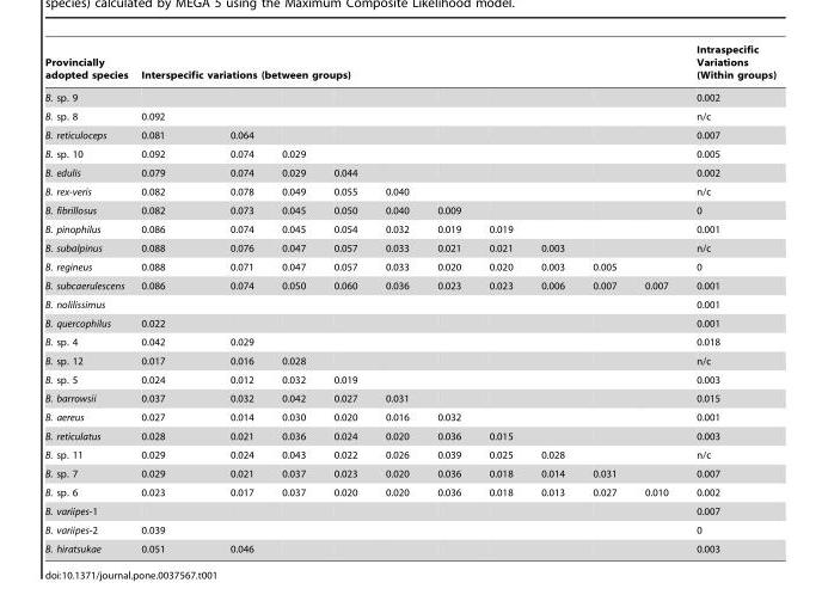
<table><thead><tr><td rowspan="2">Provincially adopted species B. sp. 9</td><td colspan="10">Interspecific variations (between groups)</td><td rowspan="2">Intraspecific Variations (Within groups) 0.002</td></tr><tr><td></td><td></td><td></td><td></td><td></td><td></td><td></td><td></td><td></td><td></td></tr></thead><tbody><tr><td>B. sp. 8</td><td>0.092</td><td></td><td></td><td></td><td></td><td></td><td></td><td></td><td></td><td></td><td>n/c</td></tr><tr><td>B. reticuloceps</td><td>0.081</td><td>0.064</td><td></td><td></td><td></td><td></td><td></td><td></td><td></td><td></td><td>0.007</td></tr><tr><td>B. sp. 10</td><td>0.092</td><td>0.074</td><td>0.029</td><td></td><td></td><td></td><td></td><td></td><td></td><td></td><td>0.005</td></tr><tr><td>B. edulis</td><td>0.079</td><td>0.074</td><td>0.029</td><td>0.044</td><td></td><td></td><td></td><td></td><td></td><td></td><td>0.002</td></tr><tr><td>B. rex-veris</td><td>0.082</td><td>0.078</td><td>0.049</td><td>0.055</td><td>0.040</td><td></td><td></td><td></td><td></td><td></td><td>n/c</td></tr><tr><td>B. fibrillosus</td><td>0.082</td><td>0.073</td><td>0.045</td><td>0.050</td><td>0.040</td><td>0.009</td><td></td><td></td><td></td><td></td><td>0</td></tr><tr><td>B. pinophilus</td><td>0.086</td><td>0.074</td><td>0.045</td><td>0.054</td><td>0.032</td><td>0.019</td><td>0.019</td><td></td><td></td><td></td><td>0.001</td></tr><tr><td>B. subalpinus</td><td>0.088</td><td>0.076</td><td>0.047</td><td>0.057</td><td>0.033</td><td>0.021</td><td>0.021</td><td>0.003</td><td></td><td></td><td>n/c</td></tr><tr><td>B. regineus</td><td>0.088</td><td>0.071</td><td>0.047</td><td>0.057</td><td>0.033</td><td>0.020</td><td>0.020</td><td>0.003</td><td>0.005</td><td></td><td>0</td></tr><tr><td>B. subcaerulescens</td><td>0.086</td><td>0.074</td><td>0.050</td><td>0.060</td><td>0.036</td><td>0.023</td><td>0.023</td><td>0.006</td><td>0.007</td><td>0.007</td><td>0.001</td></tr><tr><td>B. nolilissimus</td><td></td><td></td><td></td><td></td><td></td><td></td><td></td><td></td><td></td><td></td><td>0.001</td></tr><tr><td>B. quercophilus</td><td>0.022</td><td></td><td></td><td></td><td></td><td></td><td></td><td></td><td></td><td></td><td>0.001</td></tr><tr><td>B. sp. 4</td><td>0.042</td><td>0.029</td><td></td><td></td><td></td><td></td><td></td><td></td><td></td><td></td><td>0.018</td></tr><tr><td>B. sp. 12</td><td>0.017</td><td>0.016</td><td>0.028</td><td></td><td></td><td></td><td></td><td></td><td></td><td></td><td>n/c</td></tr><tr><td>B. sp. 5</td><td>0.024</td><td>0.012</td><td>0.032</td><td>0.019</td><td></td><td></td><td></td><td></td><td></td><td></td><td>0.003</td></tr><tr><td>B. barrowsii</td><td>0.037</td><td>0.032</td><td>0.042</td><td>0.027</td><td>0.031</td><td></td><td></td><td></td><td></td><td></td><td>0.015</td></tr><tr><td>B. aereus</td><td>0.027</td><td>0.014</td><td>0.030</td><td>0.020</td><td>0.016</td><td>0.032</td><td></td><td></td><td></td><td></td><td>0.001</td></tr><tr><td>B. reticulatus</td><td>0.028</td><td>0.021</td><td>0.036</td><td>0.024</td><td>0.020</td><td>0.036</td><td>0.015</td><td></td><td></td><td></td><td>0.003</td></tr><tr><td>B. sp. 11</td><td>0.029</td><td>0.024</td><td>0.043</td><td>0.022</td><td>0.026</td><td>0.039</td><td>0.025</td><td>0.028</td><td></td><td></td><td>n/c</td></tr><tr><td>B. sp. 7</td><td>0.029</td><td>0.021</td><td>0.037</td><td>0.023</td><td>0.020</td><td>0.036</td><td>0.018</td><td>0.014</td><td>0.031</td><td></td><td>0.007</td></tr><tr><td>B. sp. 6</td><td>0.023</td><td>0.017</td><td>0.037</td><td>0.020</td><td>0.020</td><td>0.036</td><td>0.018</td><td>0.013</td><td>0.027</td><td>0.010</td><td>0.002</td></tr><tr><td>B. variipes-1</td><td></td><td></td><td></td><td></td><td></td><td></td><td></td><td></td><td></td><td></td><td>0.007</td></tr><tr><td>B. variipes-2</td><td>0.039</td><td></td><td></td><td></td><td></td><td></td><td></td><td></td><td></td><td></td><td>0</td></tr><tr><td>B. hiratsukae</td><td>0.051</td><td>0.046</td><td></td><td></td><td></td><td></td><td></td><td></td><td></td><td></td><td>0.003</td></tr></tbody></table>